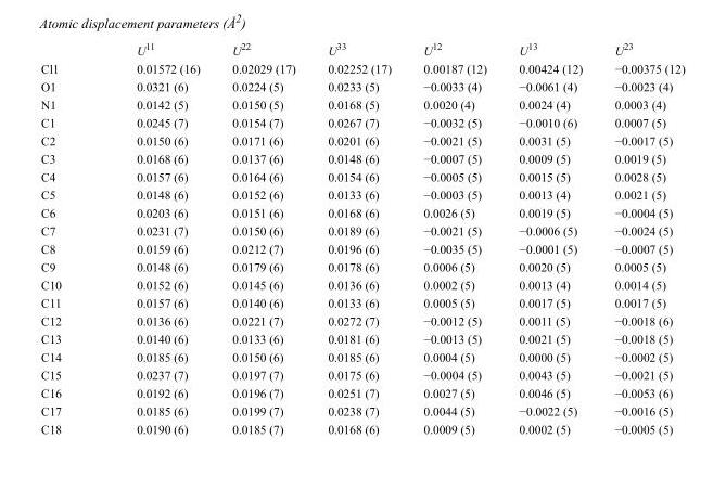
<table><thead><tr><td></td><td>U<sup>11</sup></td><td>U<sup>22</sup></td><td>U<sup>33</sup></td><td>U<sup>12</sup></td><td>U<sup>13</sup></td><td>U<sup>23</sup></td></tr></thead><tbody><tr><td>Cl1</td><td>0.01572 (16)</td><td>0.02029 (17)</td><td>0.02252 (17)</td><td>0.00187 (12)</td><td>0.00424 (12)</td><td>−0.00375 (12)</td></tr><tr><td>O1</td><td>0.0321 (6)</td><td>0.0224 (5)</td><td>0.0233 (5)</td><td>−0.0033 (4)</td><td>−0.0061 (4)</td><td>−0.0023 (4)</td></tr><tr><td>N1</td><td>0.0142 (5)</td><td>0.0150 (5)</td><td>0.0168 (5)</td><td>0.0020 (4)</td><td>0.0024 (4)</td><td>0.0003 (4)</td></tr><tr><td>C1</td><td>0.0245 (7)</td><td>0.0154 (7)</td><td>0.0267 (7)</td><td>−0.0032 (5)</td><td>−0.0010 (6)</td><td>0.0007 (5)</td></tr><tr><td>C2</td><td>0.0150 (6)</td><td>0.0171 (6)</td><td>0.0201 (6)</td><td>−0.0021 (5)</td><td>0.0031 (5)</td><td>−0.0017 (5)</td></tr><tr><td>C3</td><td>0.0168 (6)</td><td>0.0137 (6)</td><td>0.0148 (6)</td><td>−0.0007 (5)</td><td>0.0009 (5)</td><td>0.0019 (5)</td></tr><tr><td>C4</td><td>0.0157 (6)</td><td>0.0164 (6)</td><td>0.0154 (6)</td><td>−0.0005 (5)</td><td>0.0015 (5)</td><td>0.0028 (5)</td></tr><tr><td>C5</td><td>0.0148 (6)</td><td>0.0152 (6)</td><td>0.0133 (6)</td><td>−0.0003 (5)</td><td>0.0013 (4)</td><td>0.0021 (5)</td></tr><tr><td>C6</td><td>0.0203 (6)</td><td>0.0151 (6)</td><td>0.0168 (6)</td><td>0.0026 (5)</td><td>0.0019 (5)</td><td>−0.0004 (5)</td></tr><tr><td>C7</td><td>0.0231 (7)</td><td>0.0150 (6)</td><td>0.0189 (6)</td><td>−0.0021 (5)</td><td>−0.0006 (5)</td><td>−0.0024 (5)</td></tr><tr><td>C8</td><td>0.0159 (6)</td><td>0.0212 (7)</td><td>0.0196 (6)</td><td>−0.0035 (5)</td><td>−0.0001 (5)</td><td>−0.0007 (5)</td></tr><tr><td>C9</td><td>0.0148 (6)</td><td>0.0179 (6)</td><td>0.0178 (6)</td><td>0.0006 (5)</td><td>0.0020 (5)</td><td>0.0005 (5)</td></tr><tr><td>C10</td><td>0.0152 (6)</td><td>0.0145 (6)</td><td>0.0136 (6)</td><td>0.0002 (5)</td><td>0.0013 (4)</td><td>0.0014 (5)</td></tr><tr><td>C11</td><td>0.0157 (6)</td><td>0.0140 (6)</td><td>0.0133 (6)</td><td>0.0005 (5)</td><td>0.0017 (5)</td><td>0.0017 (5)</td></tr><tr><td>C12</td><td>0.0136 (6)</td><td>0.0221 (7)</td><td>0.0272 (7)</td><td>−0.0012 (5)</td><td>0.0011 (5)</td><td>−0.0018 (6)</td></tr><tr><td>C13</td><td>0.0140 (6)</td><td>0.0133 (6)</td><td>0.0181 (6)</td><td>−0.0013 (5)</td><td>0.0021 (5)</td><td>−0.0018 (5)</td></tr><tr><td>C14</td><td>0.0185 (6)</td><td>0.0150 (6)</td><td>0.0185 (6)</td><td>0.0004 (5)</td><td>0.0000 (5)</td><td>−0.0002 (5)</td></tr><tr><td>C15</td><td>0.0237 (7)</td><td>0.0197 (7)</td><td>0.0175 (6)</td><td>−0.0004 (5)</td><td>0.0043 (5)</td><td>−0.0021 (5)</td></tr><tr><td>C16</td><td>0.0192 (6)</td><td>0.0196 (7)</td><td>0.0251 (7)</td><td>0.0027 (5)</td><td>0.0046 (5)</td><td>−0.0053 (6)</td></tr><tr><td>C17</td><td>0.0185 (6)</td><td>0.0199 (7)</td><td>0.0238 (7)</td><td>0.0044 (5)</td><td>−0.0022 (5)</td><td>−0.0016 (5)</td></tr><tr><td>C18</td><td>0.0190 (6)</td><td>0.0185 (7)</td><td>0.0168 (6)</td><td>0.0009 (5)</td><td>0.0002 (5)</td><td>−0.0005 (5)</td></tr></tbody></table>